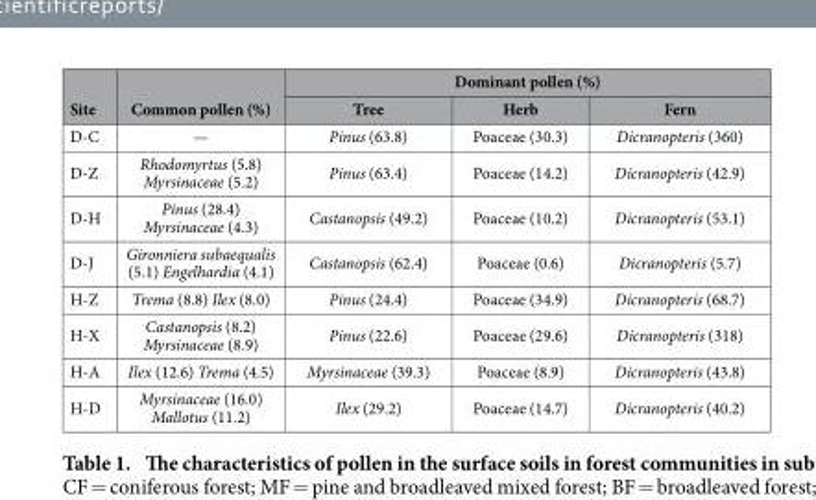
<table><thead><tr><td rowspan="2">Site</td><td rowspan="2">Common pollen (%)</td><td colspan="3">Dominant pollen (%)</td></tr><tr><td>Tree</td><td>Herb</td><td>Fern</td></tr></thead><tbody><tr><td>D-C</td><td>—</td><td>Pinus (63.8)</td><td>Poaceae (30.3)</td><td>Dicranopteris (360)</td></tr><tr><td>D-Z</td><td>Rhodomyrtus (5.8) Myrsinaceae (5.2)</td><td>Pinus (63.4)</td><td>Poaceae (14.2)</td><td>Dicranopteris (42.9)</td></tr><tr><td>D-H</td><td>Pinus (28.4) Myrsinaceae (4.3)</td><td>Castanopsis (49.2)</td><td>Poaceae (10.2)</td><td>Dicranopteris (53.1)</td></tr><tr><td>D-J</td><td>Gironniera subaequalis (5.1) Engelhardia (4.1)</td><td>Castanopsis (62.4)</td><td>Poaceae (0.6)</td><td>Dicranopteris (5.7)</td></tr><tr><td>H-Z</td><td>Trema (8.8) Ilex (8.0)</td><td>Pinus (24.4)</td><td>Poaceae (34.9)</td><td>Dicranopteris (68.7)</td></tr><tr><td>H-X</td><td>Castanopsis (8.2) Myrsinaceae (8.9)</td><td>Pinus (22.6)</td><td>Poaceae (29.6)</td><td>Dicranopteris (318)</td></tr><tr><td>H-A</td><td>Ilex (12.6) Trema (4.5)</td><td>Myrsinaceae (39.3)</td><td>Poaceae (8.9)</td><td>Dicranopteris (43.8)</td></tr><tr><td>H-D</td><td>Myrsinaceae (16.0) Mallotus (11.2)</td><td>Ilex (29.2)</td><td>Poaceae (14.7)</td><td>Dicranopteris (40.2)</td></tr></tbody></table>